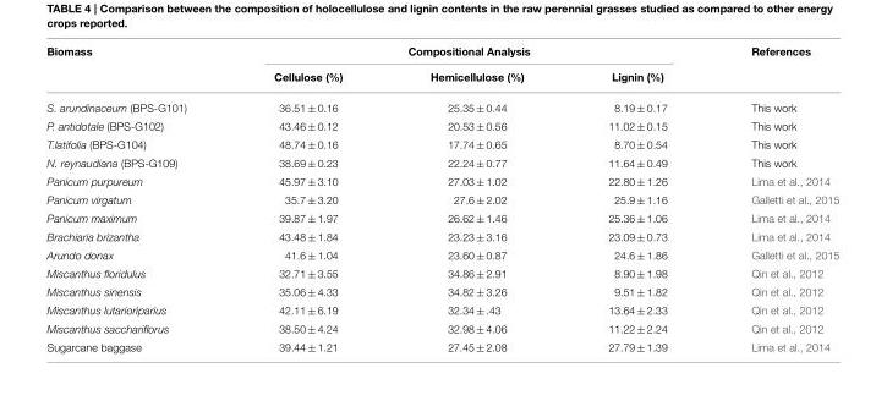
<table><thead><tr><td rowspan="2">Biomass</td><td colspan="3">Compositional Analysis</td><td rowspan="2">References</td></tr><tr><td>Cellulose (%)</td><td>Hemicellulose (%)</td><td>Lignin (%)</td></tr></thead><tbody><tr><td>S. arundinaceum (BPS-G101)</td><td>36.51 ± 0.16</td><td>25.35 ± 0.44</td><td>8.19 ± 0.17</td><td>This work</td></tr><tr><td>P. antidotale (BPS-G102)</td><td>43.46 ± 0.12</td><td>20.53 ± 0.56</td><td>11.02 ± 0.15</td><td>This work</td></tr><tr><td>T.latifolia (BPS-G104)</td><td>48.74 ± 0.16</td><td>17.74 ± 0.65</td><td>8.70 ± 0.54</td><td>This work</td></tr><tr><td>N. reynaudiana (BPS-G109)</td><td>38.69 ± 0.23</td><td>22.24 ± 0.77</td><td>11.64 ± 0.49</td><td>This work</td></tr><tr><td>Panicum purpureum</td><td>45.97 ± 3.10</td><td>27.03 ± 1.02</td><td>22.80 ± 1.26</td><td>Lima et al., 2014</td></tr><tr><td>Panicum virgatum</td><td>35.7 ± 3.20</td><td>27.6 ± 2.02</td><td>25.9 ± 1.16</td><td>Galletti et al., 2015</td></tr><tr><td>Panicum maximum</td><td>39.87 ± 1.97</td><td>26.62 ± 1.46</td><td>25.36 ± 1.06</td><td>Lima et al., 2014</td></tr><tr><td>Brachiaria brizantha</td><td>43.48 ± 1.84</td><td>23.23 ± 3.16</td><td>23.09 ± 0.73</td><td>Lima et al., 2014</td></tr><tr><td>Arundo donax</td><td>41.6 ± 1.04</td><td>23.60 ± 0.87</td><td>24.6 ± 1.86</td><td>Galletti et al., 2015</td></tr><tr><td>Miscanthus floridulus</td><td>32.71 ± 3.55</td><td>34.86 ± 2.91</td><td>8.90 ± 1.98</td><td>Qin et al., 2012</td></tr><tr><td>Miscanthus sinensis</td><td>35.06 ± 4.33</td><td>34.82 ± 3.26</td><td>9.51 ± 1.82</td><td>Qin et al., 2012</td></tr><tr><td>Miscanthus lutarioriparius</td><td>42.11 ± 6.19</td><td>32.34 ± .43</td><td>13.64 ± 2.33</td><td>Qin et al., 2012</td></tr><tr><td>Miscanthus sacchariflorus</td><td>38.50 ± 4.24</td><td>32.98 ± 4.06</td><td>11.22 ± 2.24</td><td>Qin et al., 2012</td></tr><tr><td>Sugarcane baggase</td><td>39.44 ± 1.21</td><td>27.45 ± 2.08</td><td>27.79 ± 1.39</td><td>Lima et al., 2014</td></tr></tbody></table>